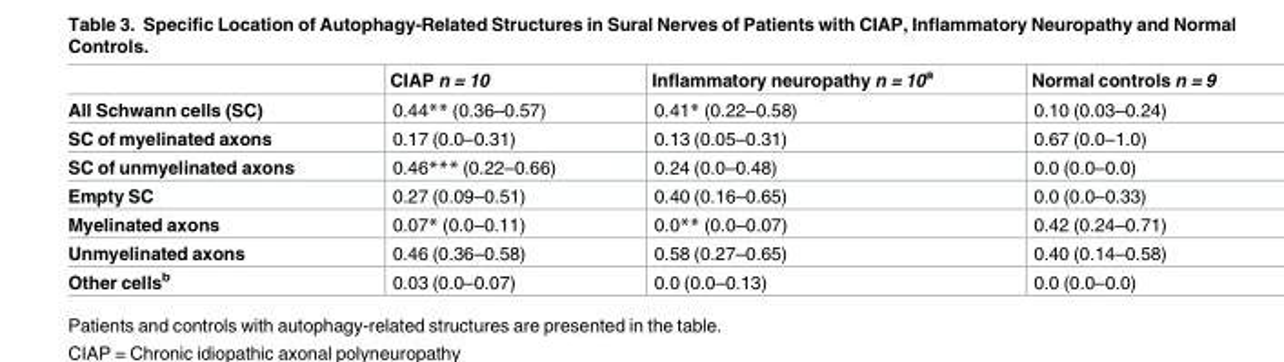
<table><thead><tr><td></td><td>CIAP n = 10</td><td>Inflammatory neuropathy n = 10<sup>a</sup></td><td>Normal controls n = 9</td></tr></thead><tbody><tr><td>All Schwann cells (SC)</td><td>0.44** (0.36–0.57)</td><td>0.41* (0.22–0.58)</td><td>0.10 (0.03–0.24)</td></tr><tr><td>SC of myelinated axons</td><td>0.17 (0.0–0.31)</td><td>0.13 (0.05–0.31)</td><td>0.67 (0.0–1.0)</td></tr><tr><td>SC of unmyelinated axons</td><td>0.46*** (0.22–0.66)</td><td>0.24 (0.0–0.48)</td><td>0.0 (0.0–0.0)</td></tr><tr><td>Empty SC</td><td>0.27 (0.09–0.51)</td><td>0.40 (0.16–0.65)</td><td>0.0 (0.0–0.33)</td></tr><tr><td>Myelinated axons</td><td>0.07* (0.0–0.11)</td><td>0.0** (0.0–0.07)</td><td>0.42 (0.24–0.71)</td></tr><tr><td>Unmyelinated axons</td><td>0.46 (0.36–0.58)</td><td>0.58 (0.27–0.65)</td><td>0.40 (0.14–0.58)</td></tr><tr><td>Other cells<sup>b</sup></td><td>0.03 (0.0–0.07)</td><td>0.0 (0.0–0.13)</td><td>0.0 (0.0–0.0)</td></tr></tbody></table>